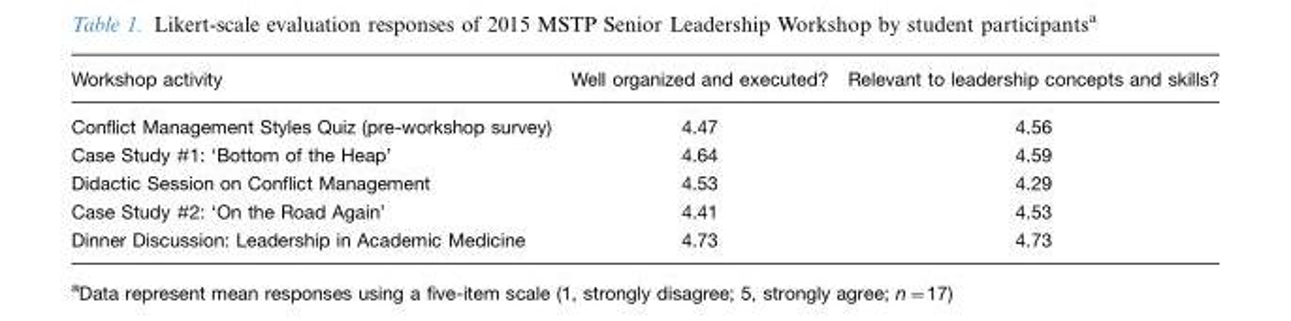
<table><thead><tr><td>Workshop activity</td><td>Well organized and executed?</td><td>Relevant to leadership concepts and skills?</td></tr></thead><tbody><tr><td>Conflict Management Styles Quiz (pre-workshop survey)</td><td>4.47</td><td>4.56</td></tr><tr><td>Case Study #1: ‘Bottom of the Heap’</td><td>4.64</td><td>4.59</td></tr><tr><td>Didactic Session on Conflict Management</td><td>4.53</td><td>4.29</td></tr><tr><td>Case Study #2: ‘On the Road Again’</td><td>4.41</td><td>4.53</td></tr><tr><td>Dinner Discussion: Leadership in Academic Medicine</td><td>4.73</td><td>4.73</td></tr></tbody></table>